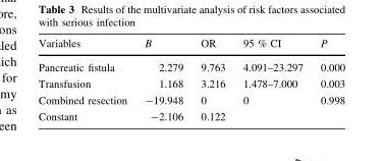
<table><thead><tr><td>Variables</td><td>B</td><td>OR</td><td>95 % CI</td><td>P</td></tr></thead><tbody><tr><td>Pancreatic fistula</td><td>2.279</td><td>9.763</td><td>4.091–23.297</td><td>0.000</td></tr><tr><td>Transfusion</td><td>1.168</td><td>3.216</td><td>1.478–7.000</td><td>0.003</td></tr><tr><td>Combined resection</td><td>-19.948</td><td>0</td><td>0</td><td>0.998</td></tr><tr><td>Constant</td><td>-2.106</td><td>0.122</td><td></td><td></td></tr></tbody></table>